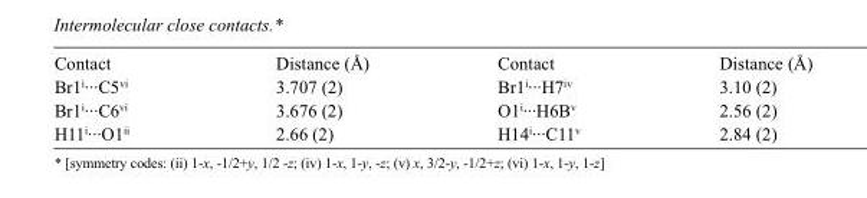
<table><tbody><tr><td>Contact</td><td>Distance (Å)</td><td>Contact</td><td>Distance (Å)</td></tr><tr><td>Br1<sup>i</sup>···C5<sup>vi</sup></td><td>3.707 (2)</td><td>Br1<sup>i</sup>···H7<sup>iv</sup></td><td>3.10 (2)</td></tr><tr><td>Br1<sup>i</sup>···C6<sup>vi</sup></td><td>3.676 (2)</td><td>O1<sup>i</sup>···H6B<sup>v</sup></td><td>2.56 (2)</td></tr><tr><td>H11<sup>i</sup>···O1<sup>ii</sup></td><td>2.66 (2)</td><td>H14<sup>i</sup>···C11<sup>v</sup></td><td>2.84 (2)</td></tr></tbody></table>